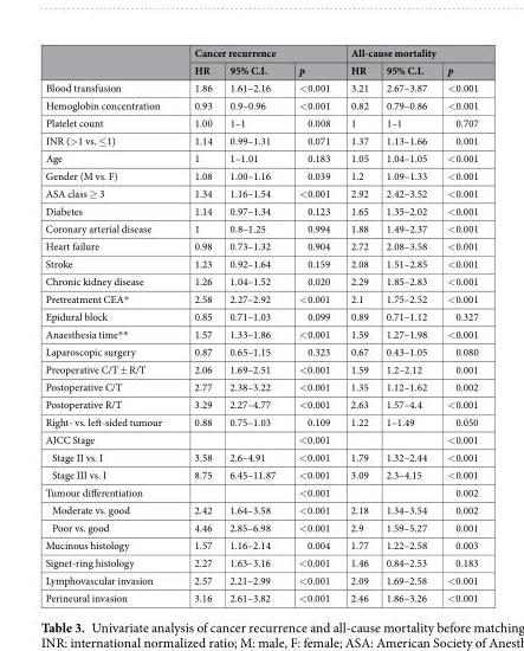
<table><thead><tr><td rowspan="2"></td><td colspan="3">Cancer recurrence</td><td colspan="3">All-cause mortality</td></tr><tr><td>HR</td><td>95% C.I.</td><td>p</td><td>HR</td><td>95% C.I.</td><td>p</td></tr></thead><tbody><tr><td>Blood transfusion</td><td>1.86</td><td>1.61–2.16</td><td>&lt;0.001</td><td>3.21</td><td>2.67–3.87</td><td>&lt;0.001</td></tr><tr><td>Hemoglobin concentration</td><td>0.93</td><td>0.9–0.96</td><td>&lt;0.001</td><td>0.82</td><td>0.79–0.86</td><td>&lt;0.001</td></tr><tr><td>Platelet count</td><td>1.00</td><td>1–1</td><td>0.008</td><td>1</td><td>1–1</td><td>0.707</td></tr><tr><td>INR (&gt;1 vs. ≤1)</td><td>1.14</td><td>0.99–1.31</td><td>0.071</td><td>1.37</td><td>1.13–1.66</td><td>0.001</td></tr><tr><td>Age</td><td>1</td><td>1–1.01</td><td>0.183</td><td>1.05</td><td>1.04–1.05</td><td>&lt;0.001</td></tr><tr><td>Gender (M vs. F)</td><td>1.08</td><td>1.00–1.16</td><td>0.039</td><td>1.2</td><td>1.09–1.33</td><td>&lt;0.001</td></tr><tr><td>ASA class ≥ 3</td><td>1.34</td><td>1.16–1.54</td><td>&lt;0.001</td><td>2.92</td><td>2.42–3.52</td><td>&lt;0.001</td></tr><tr><td>Diabetes</td><td>1.14</td><td>0.97–1.34</td><td>0.123</td><td>1.65</td><td>1.35–2.02</td><td>&lt;0.001</td></tr><tr><td>Coronary arterial disease</td><td>1</td><td>0.8–1.25</td><td>0.994</td><td>1.88</td><td>1.49–2.37</td><td>&lt;0.001</td></tr><tr><td>Heart failure</td><td>0.98</td><td>0.73–1.32</td><td>0.904</td><td>2.72</td><td>2.08–3.58</td><td>&lt;0.001</td></tr><tr><td>Stroke</td><td>1.23</td><td>0.92–1.64</td><td>0.159</td><td>2.08</td><td>1.51–2.85</td><td>&lt;0.001</td></tr><tr><td>Chronic kidney disease</td><td>1.26</td><td>1.04–1.52</td><td>0.020</td><td>2.29</td><td>1.85–2.83</td><td>&lt;0.001</td></tr><tr><td>Pretreatment CEA*</td><td>2.58</td><td>2.27–2.92</td><td>&lt;0.001</td><td>2.1</td><td>1.75–2.52</td><td>&lt;0.001</td></tr><tr><td>Epidural block</td><td>0.85</td><td>0.71–1.03</td><td>0.099</td><td>0.89</td><td>0.71–1.12</td><td>0.327</td></tr><tr><td>Anaesthesia time**</td><td>1.57</td><td>1.33–1.86</td><td>&lt;0.001</td><td>1.59</td><td>1.27–1.98</td><td>&lt;0.001</td></tr><tr><td>Laparoscopic surgery</td><td>0.87</td><td>0.65–1.15</td><td>0.323</td><td>0.67</td><td>0.43–1.05</td><td>0.080</td></tr><tr><td>Preoperative C/T ± R/T</td><td>2.06</td><td>1.69–2.51</td><td>&lt;0.001</td><td>1.59</td><td>1.2–2.12</td><td>0.001</td></tr><tr><td>Postoperative C/T</td><td>2.77</td><td>2.38–3.22</td><td>&lt;0.001</td><td>1.35</td><td>1.12–1.62</td><td>0.002</td></tr><tr><td>Postoperative R/T</td><td>3.29</td><td>2.27–4.77</td><td>&lt;0.001</td><td>2.63</td><td>1.57–4.4</td><td>&lt;0.001</td></tr><tr><td>Right- vs. left-sided tumour</td><td>0.88</td><td>0.75–1.03</td><td>0.109</td><td>1.22</td><td>1–1.49</td><td>0.050</td></tr><tr><td>AJCC Stage</td><td></td><td></td><td>&lt;0.001</td><td></td><td></td><td>&lt;0.001</td></tr><tr><td>Stage II vs. I</td><td>3.58</td><td>2.6–4.91</td><td>&lt;0.001</td><td>1.79</td><td>1.32–2.44</td><td>&lt;0.001</td></tr><tr><td>Stage III vs. I</td><td>8.75</td><td>6.45–11.87</td><td>&lt;0.001</td><td>3.09</td><td>2.3–4.15</td><td>&lt;0.001</td></tr><tr><td>Tumour differentiation</td><td></td><td></td><td>&lt;0.001</td><td></td><td></td><td>0.002</td></tr><tr><td>Moderate vs. good</td><td>2.42</td><td>1.64–3.58</td><td>&lt;0.001</td><td>2.18</td><td>1.34–3.54</td><td>0.002</td></tr><tr><td>Poor vs. good</td><td>4.46</td><td>2.85–6.98</td><td>&lt;0.001</td><td>2.9</td><td>1.59–5.27</td><td>0.001</td></tr><tr><td>Mucinous histology</td><td>1.57</td><td>1.16–2.14</td><td>0.004</td><td>1.77</td><td>1.22–2.58</td><td>0.003</td></tr><tr><td>Signet-ring histology</td><td>2.27</td><td>1.63–3.16</td><td>&lt;0.001</td><td>1.46</td><td>0.84–2.53</td><td>0.183</td></tr><tr><td>Lymphovascular invasion</td><td>2.57</td><td>2.21–2.99</td><td>&lt;0.001</td><td>2.09</td><td>1.69–2.58</td><td>&lt;0.001</td></tr><tr><td>Perineural invasion</td><td>3.16</td><td>2.61–3.82</td><td>&lt;0.001</td><td>2.46</td><td>1.86–3.26</td><td>&lt;0.001</td></tr></tbody></table>